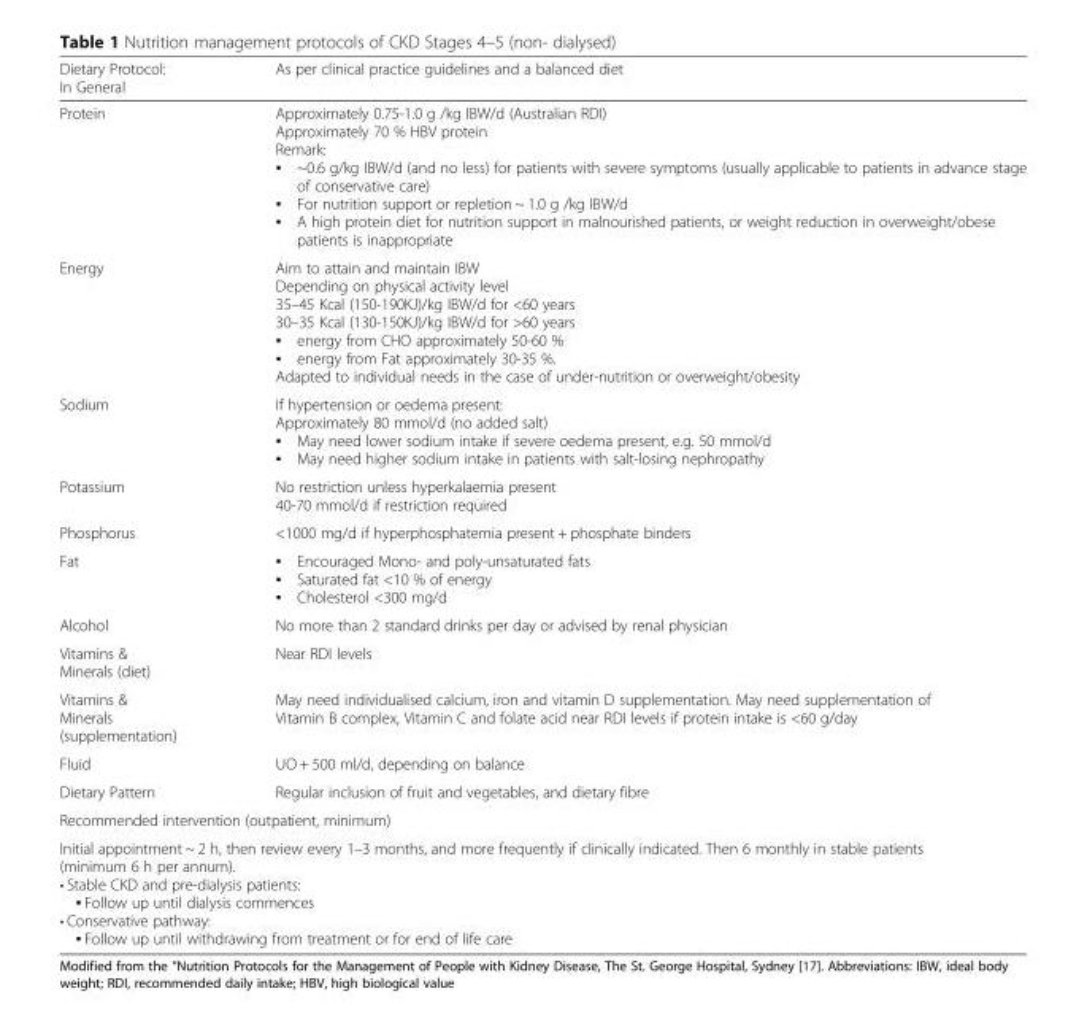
<table><thead><tr><td>Dietary Protocol: In General</td><td>As per clinical practice guidelines and a balanced diet</td></tr></thead><tbody><tr><td>Protein</td><td>Approximately 0.75-1.0 g /kg IBW/d (Australian RDI) Approximately 70 % HBV protein Remark: ▪ ~0.6 g/kg IBW/d (and no less) for patients with severe symptoms (usually applicable to patients in advance stage of conservative care) ▪ For nutrition support or repletion ~ 1.0 g /kg IBW/d ▪ A high protein diet for nutrition support in malnourished patients, or weight reduction in overweight/obese patients is inappropriate</td></tr><tr><td>Energy</td><td>Aim to attain and maintain IBW Depending on physical activity level 35–45 Kcal (150-190KJ)/kg IBW/d for &lt;60 years 30–35 Kcal (130-150KJ)/kg IBW/d for &gt;60 years ▪ energy from CHO approximately 50-60 % ▪ energy from Fat approximately 30-35 %. Adapted to individual needs in the case of under-nutrition or overweight/obesity</td></tr><tr><td>Sodium</td><td>If hypertension or oedema present: Approximately 80 mmol/d (no added salt) ▪ May need lower sodium intake if severe oedema present, e.g. 50 mmol/d ▪ May need higher sodium intake in patients with salt-losing nephropathy</td></tr><tr><td>Potassium</td><td>No restriction unless hyperkalaemia present 40-70 mmol/d if restriction required</td></tr><tr><td>Phosphorus</td><td>&lt;1000 mg/d if hyperphosphatemia present + phosphate binders</td></tr><tr><td>Fat</td><td>▪ Encouraged Mono- and poly-unsaturated fats ▪ Saturated fat &lt;10 % of energy ▪ Cholesterol &lt;300 mg/d</td></tr><tr><td>Alcohol</td><td>No more than 2 standard drinks per day or advised by renal physician</td></tr><tr><td>Vitamins &amp; Minerals (diet)</td><td>Near RDI levels</td></tr><tr><td>Vitamins &amp; Minerals (supplementation)</td><td>May need individualised calcium, iron and vitamin D supplementation. May need supplementation of Vitamin B complex, Vitamin C and folate acid near RDI levels if protein intake is &lt;60 g/day</td></tr><tr><td>Fluid</td><td>UO + 500 ml/d, depending on balance</td></tr><tr><td>Dietary Pattern</td><td>Regular inclusion of fruit and vegetables, and dietary fibre</td></tr><tr><td colspan="2">Recommended intervention (outpatient, minimum)</td></tr><tr><td colspan="2">Initial appointment ~ 2 h, then review every 1–3 months, and more frequently if clinically indicated. Then 6 monthly in stable patients (minimum 6 h per annum). • Stable CKD and pre-dialysis patients: ▪ Follow up until dialysis commences • Conservative pathway: ▪ Follow up until withdrawing from treatment or for end of life care</td></tr></tbody></table>